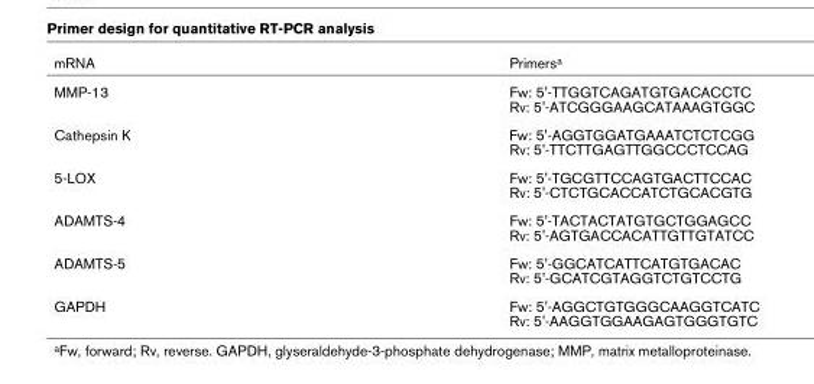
<table><thead><tr><td>mRNA</td><td>Primersa</td></tr></thead><tbody><tr><td>MMP-13</td><td>Fw: 5&#x27;-TTGGTCAGATGTGACACCTC Rv: 5&#x27;-ATCGGGAAGCATAAAGTGGC</td></tr><tr><td>Cathepsin K</td><td>Fw: 5&#x27;-AGGTGGATGAAATCTCTCGG Rv: 5&#x27;-TTCTTGAGTTGGCCCTCCAG</td></tr><tr><td>5-LOX</td><td>Fw: 5&#x27;-TGCGTTCCAGTGACTTCCAC Rv: 5&#x27;-CTCTGCACCATCTGCACGTG</td></tr><tr><td>ADAMTS-4</td><td>Fw: 5&#x27;-TACTACTATGTGCTGGAGCC Rv: 5&#x27;-AGTGACCACATTGTTGTATCC</td></tr><tr><td>ADAMTS-5</td><td>Fw: 5&#x27;-GGCATCATTCATGTGACAC Rv: 5&#x27;-GCATCGTAGGTCTGTCCTG</td></tr><tr><td>GAPDH</td><td>Fw: 5&#x27;-AGGCTGTGGGCAAGGTCATC Rv: 5&#x27;-AAGGTGGAAGAGTGGGTGTC</td></tr></tbody></table>